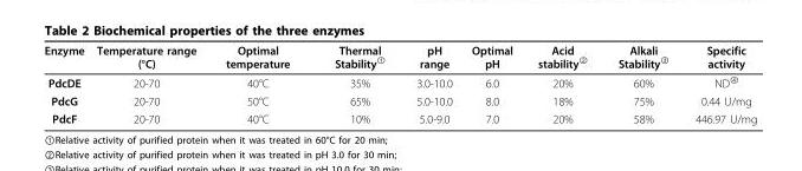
<table><thead><tr><td>Enzyme</td><td>Temperature range (°C)</td><td>Optimal temperature</td><td>Thermal Stability<sup>①</sup></td><td>pH range</td><td>Optimal pH</td><td>Acid stability<sup>②</sup></td><td>Alkali Stability<sup>③</sup></td><td>Specific activity</td></tr></thead><tbody><tr><td>PdcDE</td><td>20-70</td><td>40°C</td><td>35%</td><td>3.0-10.0</td><td>6.0</td><td>20%</td><td>60%</td><td>ND<sup>④</sup></td></tr><tr><td>PdcG</td><td>20-70</td><td>50°C</td><td>65%</td><td>5.0-10.0</td><td>8.0</td><td>18%</td><td>75%</td><td>0.44 U/mg</td></tr><tr><td>PdcF</td><td>20-70</td><td>40°C</td><td>10%</td><td>5.0-9.0</td><td>7.0</td><td>20%</td><td>58%</td><td>446.97 U/mg</td></tr></tbody></table>